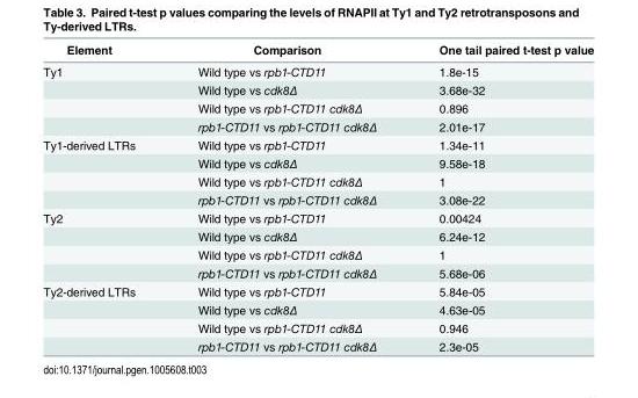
<table><thead><tr><td>Element</td><td>Comparison</td><td>One tail paired t-test p value</td></tr></thead><tbody><tr><td rowspan="4">Ty1</td><td>Wild type vs rpb1-CTD11</td><td>1.8e-15</td></tr><tr><td>Wild type vs cdk8Δ</td><td>3.68e-32</td></tr><tr><td>Wild type vs rpb1-CTD11 cdk8Δ</td><td>0.896</td></tr><tr><td>rpb1-CTD11 vs rpb1-CTD11 cdk8Δ</td><td>2.01e-17</td></tr><tr><td rowspan="4">Ty1-derived LTRs</td><td>Wild type vs rpb1-CTD11</td><td>1.34e-11</td></tr><tr><td>Wild type vs cdk8Δ</td><td>9.58e-18</td></tr><tr><td>Wild type vs rpb1-CTD11 cdk8Δ</td><td>1</td></tr><tr><td>rpb1-CTD11 vs rpb1-CTD11 cdk8Δ</td><td>3.08e-22</td></tr><tr><td rowspan="4">Ty2</td><td>Wild type vs rpb1-CTD11</td><td>0.00424</td></tr><tr><td>Wild type vs cdk8Δ</td><td>6.24e-12</td></tr><tr><td>Wild type vs rpb1-CTD11 cdk8Δ</td><td>1</td></tr><tr><td>rpb1-CTD11 vs rpb1-CTD11 cdk8Δ</td><td>5.68e-06</td></tr><tr><td rowspan="4">Ty2-derived LTRs</td><td>Wild type vs rpb1-CTD11</td><td>5.84e-05</td></tr><tr><td>Wild type vs cdk8Δ</td><td>4.63e-05</td></tr><tr><td>Wild type vs rpb1-CTD11 cdk8Δ</td><td>0.946</td></tr><tr><td>rpb1-CTD11 vs rpb1-CTD11 cdk8Δ</td><td>2.3e-05</td></tr></tbody></table>